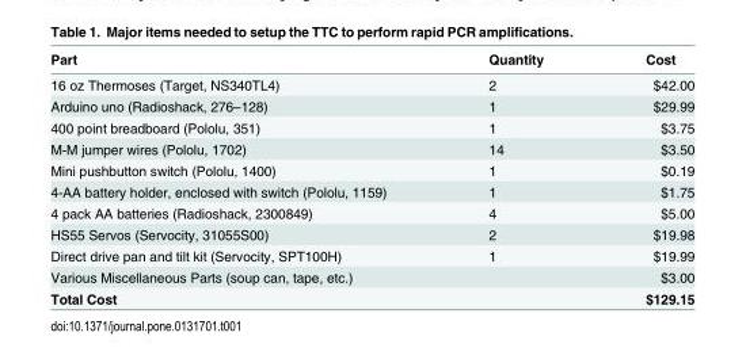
<table><thead><tr><td>Part</td><td>Quantity</td><td>Cost</td></tr></thead><tbody><tr><td>16 oz Thermoses (Target, NS340TL4)</td><td>2</td><td>$42.00</td></tr><tr><td>Arduino uno (Radioshack, 276–128)</td><td>1</td><td>$29.99</td></tr><tr><td>400 point breadboard (Pololu, 351)</td><td>1</td><td>$3.75</td></tr><tr><td>M-M jumper wires (Pololu, 1702)</td><td>14</td><td>$3.50</td></tr><tr><td>Mini pushbutton switch (Pololu, 1400)</td><td>1</td><td>$0.19</td></tr><tr><td>4-AA battery holder, enclosed with switch (Pololu, 1159)</td><td>1</td><td>$1.75</td></tr><tr><td>4 pack AA batteries (Radioshack, 2300849)</td><td>4</td><td>$5.00</td></tr><tr><td>HS55 Servos (Servocity, 31055S00)</td><td>2</td><td>$19.98</td></tr><tr><td>Direct drive pan and tilt kit (Servocity, SPT100H)</td><td>1</td><td>$19.99</td></tr><tr><td>Various Miscellaneous Parts (soup can, tape, etc.)</td><td></td><td>$3.00</td></tr><tr><td>Total Cost</td><td></td><td>$129.15</td></tr></tbody></table>